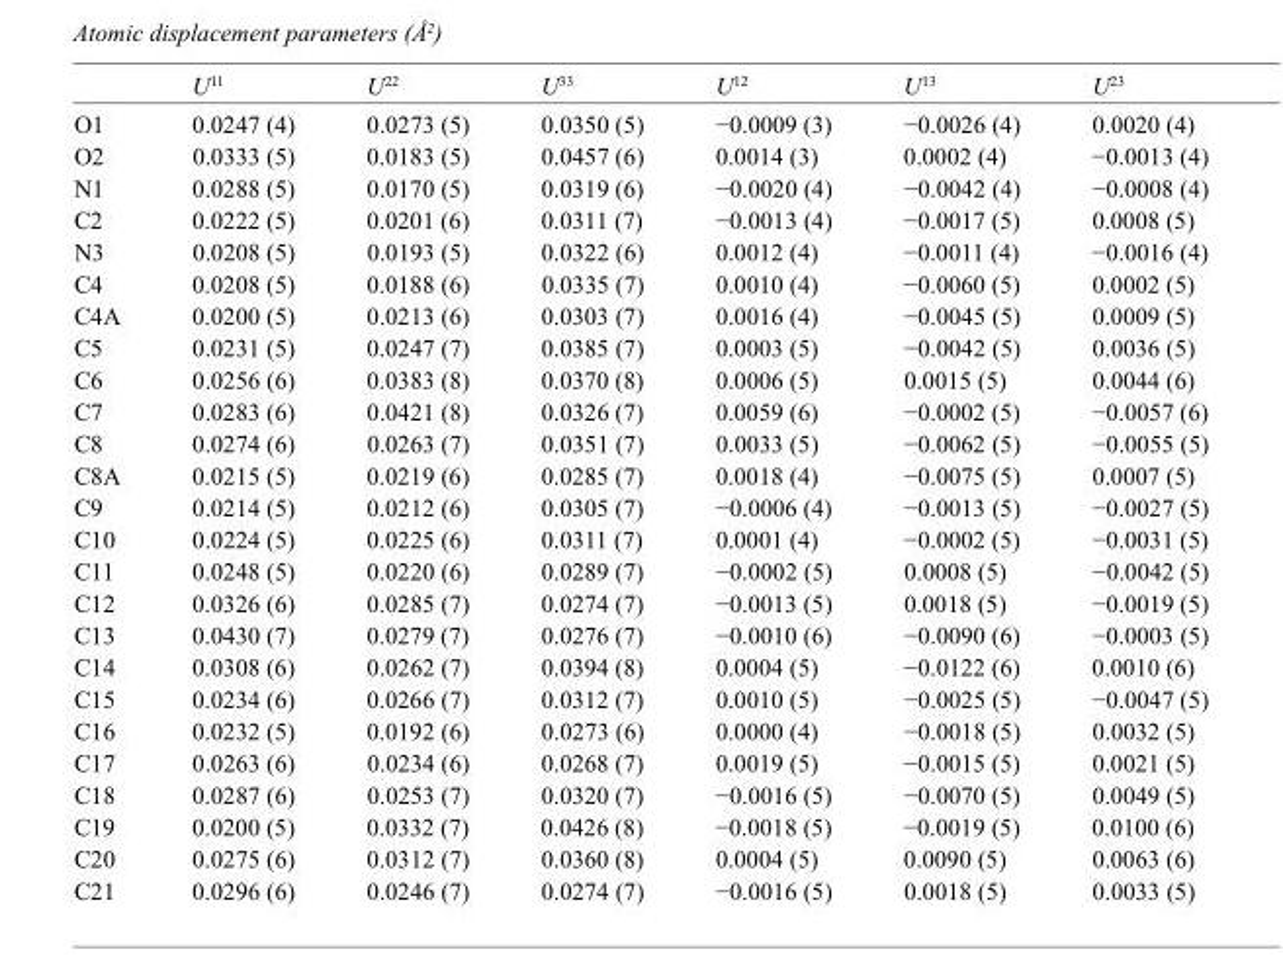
<table><thead><tr><td></td><td>U<sup>11</sup></td><td>U<sup>22</sup></td><td>U<sup>33</sup></td><td>U<sup>12</sup></td><td>U<sup>13</sup></td><td>U<sup>23</sup></td></tr></thead><tbody><tr><td>O1</td><td>0.0247 (4)</td><td>0.0273 (5)</td><td>0.0350 (5)</td><td>−0.0009 (3)</td><td>−0.0026 (4)</td><td>0.0020 (4)</td></tr><tr><td>O2</td><td>0.0333 (5)</td><td>0.0183 (5)</td><td>0.0457 (6)</td><td>0.0014 (3)</td><td>0.0002 (4)</td><td>−0.0013 (4)</td></tr><tr><td>N1</td><td>0.0288 (5)</td><td>0.0170 (5)</td><td>0.0319 (6)</td><td>−0.0020 (4)</td><td>−0.0042 (4)</td><td>−0.0008 (4)</td></tr><tr><td>C2</td><td>0.0222 (5)</td><td>0.0201 (6)</td><td>0.0311 (7)</td><td>−0.0013 (4)</td><td>−0.0017 (5)</td><td>0.0008 (5)</td></tr><tr><td>N3</td><td>0.0208 (5)</td><td>0.0193 (5)</td><td>0.0322 (6)</td><td>0.0012 (4)</td><td>−0.0011 (4)</td><td>−0.0016 (4)</td></tr><tr><td>C4</td><td>0.0208 (5)</td><td>0.0188 (6)</td><td>0.0335 (7)</td><td>0.0010 (4)</td><td>−0.0060 (5)</td><td>0.0002 (5)</td></tr><tr><td>C4A</td><td>0.0200 (5)</td><td>0.0213 (6)</td><td>0.0303 (7)</td><td>0.0016 (4)</td><td>−0.0045 (5)</td><td>0.0009 (5)</td></tr><tr><td>C5</td><td>0.0231 (5)</td><td>0.0247 (7)</td><td>0.0385 (7)</td><td>0.0003 (5)</td><td>−0.0042 (5)</td><td>0.0036 (5)</td></tr><tr><td>C6</td><td>0.0256 (6)</td><td>0.0383 (8)</td><td>0.0370 (8)</td><td>0.0006 (5)</td><td>0.0015 (5)</td><td>0.0044 (6)</td></tr><tr><td>C7</td><td>0.0283 (6)</td><td>0.0421 (8)</td><td>0.0326 (7)</td><td>0.0059 (6)</td><td>−0.0002 (5)</td><td>−0.0057 (6)</td></tr><tr><td>C8</td><td>0.0274 (6)</td><td>0.0263 (7)</td><td>0.0351 (7)</td><td>0.0033 (5)</td><td>−0.0062 (5)</td><td>−0.0055 (5)</td></tr><tr><td>C8A</td><td>0.0215 (5)</td><td>0.0219 (6)</td><td>0.0285 (7)</td><td>0.0018 (4)</td><td>−0.0075 (5)</td><td>0.0007 (5)</td></tr><tr><td>C9</td><td>0.0214 (5)</td><td>0.0212 (6)</td><td>0.0305 (7)</td><td>−0.0006 (4)</td><td>−0.0013 (5)</td><td>−0.0027 (5)</td></tr><tr><td>C10</td><td>0.0224 (5)</td><td>0.0225 (6)</td><td>0.0311 (7)</td><td>0.0001 (4)</td><td>−0.0002 (5)</td><td>−0.0031 (5)</td></tr><tr><td>C11</td><td>0.0248 (5)</td><td>0.0220 (6)</td><td>0.0289 (7)</td><td>−0.0002 (5)</td><td>0.0008 (5)</td><td>−0.0042 (5)</td></tr><tr><td>C12</td><td>0.0326 (6)</td><td>0.0285 (7)</td><td>0.0274 (7)</td><td>−0.0013 (5)</td><td>0.0018 (5)</td><td>−0.0019 (5)</td></tr><tr><td>C13</td><td>0.0430 (7)</td><td>0.0279 (7)</td><td>0.0276 (7)</td><td>−0.0010 (6)</td><td>−0.0090 (6)</td><td>−0.0003 (5)</td></tr><tr><td>C14</td><td>0.0308 (6)</td><td>0.0262 (7)</td><td>0.0394 (8)</td><td>0.0004 (5)</td><td>−0.0122 (6)</td><td>0.0010 (6)</td></tr><tr><td>C15</td><td>0.0234 (6)</td><td>0.0266 (7)</td><td>0.0312 (7)</td><td>0.0010 (5)</td><td>−0.0025 (5)</td><td>−0.0047 (5)</td></tr><tr><td>C16</td><td>0.0232 (5)</td><td>0.0192 (6)</td><td>0.0273 (6)</td><td>0.0000 (4)</td><td>−0.0018 (5)</td><td>0.0032 (5)</td></tr><tr><td>C17</td><td>0.0263 (6)</td><td>0.0234 (6)</td><td>0.0268 (7)</td><td>0.0019 (5)</td><td>−0.0015 (5)</td><td>0.0021 (5)</td></tr><tr><td>C18</td><td>0.0287 (6)</td><td>0.0253 (7)</td><td>0.0320 (7)</td><td>−0.0016 (5)</td><td>−0.0070 (5)</td><td>0.0049 (5)</td></tr><tr><td>C19</td><td>0.0200 (5)</td><td>0.0332 (7)</td><td>0.0426 (8)</td><td>−0.0018 (5)</td><td>−0.0019 (5)</td><td>0.0100 (6)</td></tr><tr><td>C20</td><td>0.0275 (6)</td><td>0.0312 (7)</td><td>0.0360 (8)</td><td>0.0004 (5)</td><td>0.0090 (5)</td><td>0.0063 (6)</td></tr><tr><td>C21</td><td>0.0296 (6)</td><td>0.0246 (7)</td><td>0.0274 (7)</td><td>−0.0016 (5)</td><td>0.0018 (5)</td><td>0.0033 (5)</td></tr></tbody></table>